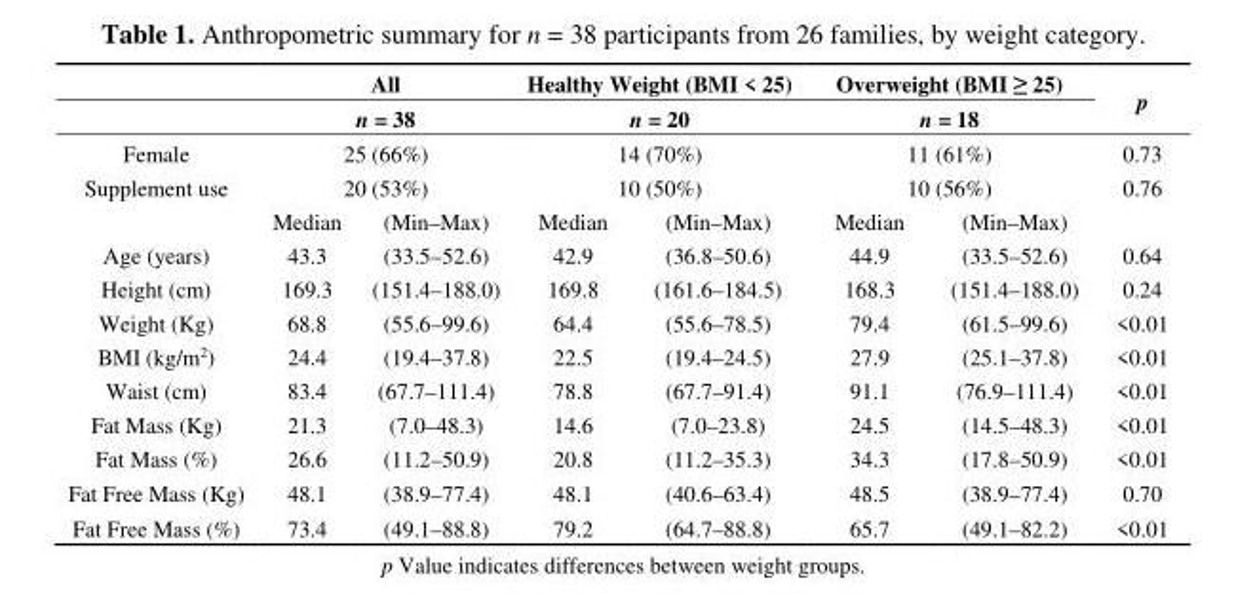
<table><thead><tr><td rowspan="5">Female Supplement use</td><td rowspan="4" colspan="2">All n = 38 25 (66%) 20 (53%)</td><td rowspan="4" colspan="2">Healthy Weight (BMI &lt; 25) n = 20 14 (70%) 10 (50%)</td><td rowspan="4" colspan="2">Overweight (BMI ≥ 25) n = 18 11 (61%) 10 (56%)</td><td rowspan="5">p 0.73 0.76</td></tr><tr></tr><tr></tr><tr></tr><tr><td>Median</td><td>(Min–Max)</td><td>Median</td><td>(Min–Max)</td><td>Median</td><td>(Min–Max)</td></tr></thead><tbody><tr><td>Age (years)</td><td>43.3</td><td>(33.5–52.6)</td><td>42.9</td><td>(36.8–50.6)</td><td>44.9</td><td>(33.5–52.6)</td><td>0.64</td></tr><tr><td>Height (cm)</td><td>169.3</td><td>(151.4–188.0)</td><td>169.8</td><td>(161.6–184.5)</td><td>168.3</td><td>(151.4–188.0)</td><td>0.24</td></tr><tr><td>Weight (Kg)</td><td>68.8</td><td>(55.6–99.6)</td><td>64.4</td><td>(55.6–78.5)</td><td>79.4</td><td>(61.5–99.6)</td><td>&lt;0.01</td></tr><tr><td>BMI (kg/m<sup>2</sup>)</td><td>24.4</td><td>(19.4–37.8)</td><td>22.5</td><td>(19.4–24.5)</td><td>27.9</td><td>(25.1–37.8)</td><td>&lt;0.01</td></tr><tr><td>Waist (cm)</td><td>83.4</td><td>(67.7–111.4)</td><td>78.8</td><td>(67.7–91.4)</td><td>91.1</td><td>(76.9–111.4)</td><td>&lt;0.01</td></tr><tr><td>Fat Mass (Kg)</td><td>21.3</td><td>(7.0–48.3)</td><td>14.6</td><td>(7.0–23.8)</td><td>24.5</td><td>(14.5–48.3)</td><td>&lt;0.01</td></tr><tr><td>Fat Mass (%)</td><td>26.6</td><td>(11.2–50.9)</td><td>20.8</td><td>(11.2–35.3)</td><td>34.3</td><td>(17.8–50.9)</td><td>&lt;0.01</td></tr><tr><td>Fat Free Mass (Kg)</td><td>48.1</td><td>(38.9–77.4)</td><td>48.1</td><td>(40.6–63.4)</td><td>48.5</td><td>(38.9–77.4)</td><td>0.70</td></tr><tr><td>Fat Free Mass (%)</td><td>73.4</td><td>(49.1–88.8)</td><td>79.2</td><td>(64.7–88.8)</td><td>65.7</td><td>(49.1–82.2)</td><td>&lt;0.01</td></tr></tbody></table>